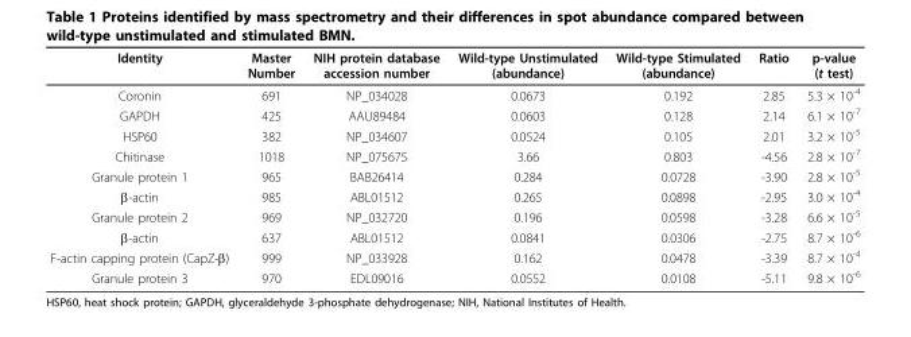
<table><thead><tr><td>Identity</td><td>Master Number</td><td>NIH protein database accession number</td><td>Wild-type Unstimulated (abundance)</td><td>Wild-type Stimulated (abundance)</td><td>Ratio</td><td>p-value (t test)</td></tr></thead><tbody><tr><td>Coronin</td><td>691</td><td>NP_034028</td><td>0.0673</td><td>0.192</td><td>2.85</td><td>5.3 × 10<sup>-4</sup></td></tr><tr><td>GAPDH</td><td>425</td><td>AAU89484</td><td>0.0603</td><td>0.128</td><td>2.14</td><td>6.1 × 10<sup>-7</sup></td></tr><tr><td>HSP60</td><td>382</td><td>NP_034607</td><td>0.0524</td><td>0.105</td><td>2.01</td><td>3.2 × 10<sup>-5</sup></td></tr><tr><td>Chitinase</td><td>1018</td><td>NP_075675</td><td>3.66</td><td>0.803</td><td>-4.56</td><td>2.8 × 10<sup>-7</sup></td></tr><tr><td>Granule protein 1</td><td>965</td><td>BAB26414</td><td>0.284</td><td>0.0728</td><td>-3.90</td><td>2.8 × 10<sup>-5</sup></td></tr><tr><td>β-actin</td><td>985</td><td>ABL01512</td><td>0.265</td><td>0.0898</td><td>-2.95</td><td>3.0 × 10<sup>-4</sup></td></tr><tr><td>Granule protein 2</td><td>969</td><td>NP_032720</td><td>0.196</td><td>0.0598</td><td>-3.28</td><td>6.6 × 10<sup>-5</sup></td></tr><tr><td>β-actin</td><td>637</td><td>ABL01512</td><td>0.0841</td><td>0.0306</td><td>-2.75</td><td>8.7 × 10<sup>-6</sup></td></tr><tr><td>F-actin capping protein (CapZ-β)</td><td>999</td><td>NP_033928</td><td>0.162</td><td>0.0478</td><td>-3.39</td><td>8.7 × 10<sup>-4</sup></td></tr><tr><td>Granule protein 3</td><td>970</td><td>EDL09016</td><td>0.0552</td><td>0.0108</td><td>-5.11</td><td>9.8 × 10<sup>-6</sup></td></tr></tbody></table>